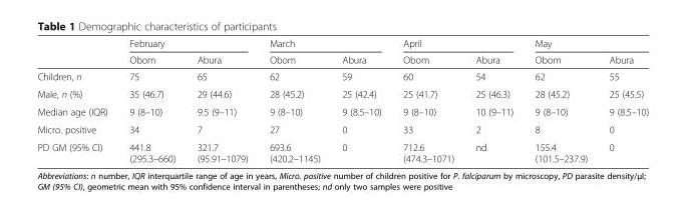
<table><thead><tr><td rowspan="2"></td><td colspan="2">February</td><td colspan="2">March</td><td colspan="2">April</td><td colspan="2">May</td></tr><tr><td>Obom</td><td>Abura</td><td>Obom</td><td>Abura</td><td>Obom</td><td>Abura</td><td>Obom</td><td>Abura</td></tr></thead><tbody><tr><td>Children, n</td><td>75</td><td>65</td><td>62</td><td>59</td><td>60</td><td>54</td><td>62</td><td>55</td></tr><tr><td>Male, n (%)</td><td>35 (46.7)</td><td>29 (44.6)</td><td>28 (45.2)</td><td>25 (42.4)</td><td>25 (41.7)</td><td>25 (46.3)</td><td>28 (45.2)</td><td>25 (45.5)</td></tr><tr><td>Median age (IQR)</td><td>9 (8–10)</td><td>9.5 (9–11)</td><td>9 (8–10)</td><td>9 (8.5–10)</td><td>9 (8–10)</td><td>10 (9–11)</td><td>9 (8–10)</td><td>9 (8.5–10)</td></tr><tr><td>Micro. positive</td><td>34</td><td>7</td><td>27</td><td>0</td><td>33</td><td>2</td><td>8</td><td>0</td></tr><tr><td>PD GM (95% CI)</td><td>441.8 (295.3–660)</td><td>321.7 (95.91–1079)</td><td>693.6 (420.2–1145)</td><td>0</td><td>712.6 (474.3–1071)</td><td>nd</td><td>155.4 (101.5–237.9)</td><td>0</td></tr></tbody></table>